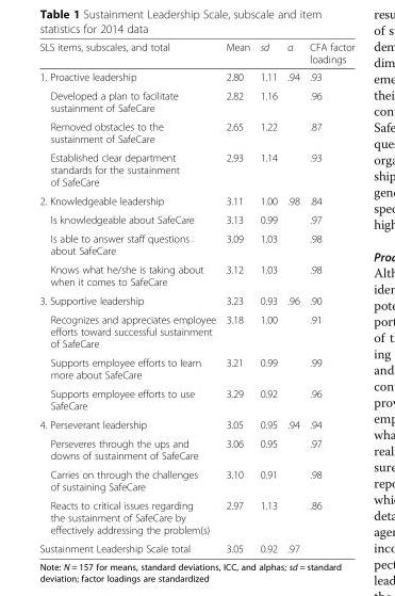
<table><thead><tr><td>SLS items, subscales, and total</td><td>Mean</td><td>sd</td><td>α</td><td>CFA factor loadings</td></tr></thead><tbody><tr><td>1. Proactive leadership</td><td>2.80</td><td>1.11</td><td>.94</td><td>.93</td></tr><tr><td>Developed a plan to facilitate sustainment of SafeCare</td><td>2.82</td><td>1.16</td><td></td><td>.96</td></tr><tr><td>Removed obstacles to the sustainment of SafeCare</td><td>2.65</td><td>1.22</td><td></td><td>.87</td></tr><tr><td>Established clear department standards for the sustainment of SafeCare</td><td>2.93</td><td>1.14</td><td></td><td>.93</td></tr><tr><td>2. Knowledgeable leadership</td><td>3.11</td><td>1.00</td><td>.98</td><td>.84</td></tr><tr><td>Is knowledgeable about SafeCare</td><td>3.13</td><td>0.99</td><td></td><td>.97</td></tr><tr><td>Is able to answer staff questions about SafeCare</td><td>3.09</td><td>1.03</td><td></td><td>.98</td></tr><tr><td>Knows what he/she is taking about when it comes to SafeCare</td><td>3.12</td><td>1.03</td><td></td><td>.98</td></tr><tr><td>3. Supportive leadership</td><td>3.23</td><td>0.93</td><td>.96</td><td>.90</td></tr><tr><td>Recognizes and appreciates employee efforts toward successful sustainment of SafeCare</td><td>3.18</td><td>1.00</td><td></td><td>.91</td></tr><tr><td>Supports employee efforts to learn more about SafeCare</td><td>3.21</td><td>0.99</td><td></td><td>.99</td></tr><tr><td>Supports employee efforts to use SafeCare</td><td>3.29</td><td>0.92</td><td></td><td>.96</td></tr><tr><td>4. Perseverant leadership</td><td>3.05</td><td>0.95</td><td>.94</td><td>.94</td></tr><tr><td>Perseveres through the ups and downs of sustainment of SafeCare</td><td>3.06</td><td>0.95</td><td></td><td>.97</td></tr><tr><td>Carries on through the challenges of sustaining SafeCare</td><td>3.10</td><td>0.91</td><td></td><td>.98</td></tr><tr><td>Reacts to critical issues regarding the sustainment of SafeCare by effectively addressing the problem(s)</td><td>2.97</td><td>1.13</td><td></td><td>.86</td></tr><tr><td>Sustainment Leadership Scale total</td><td>3.05</td><td>0.92</td><td>.97</td><td></td></tr></tbody></table>